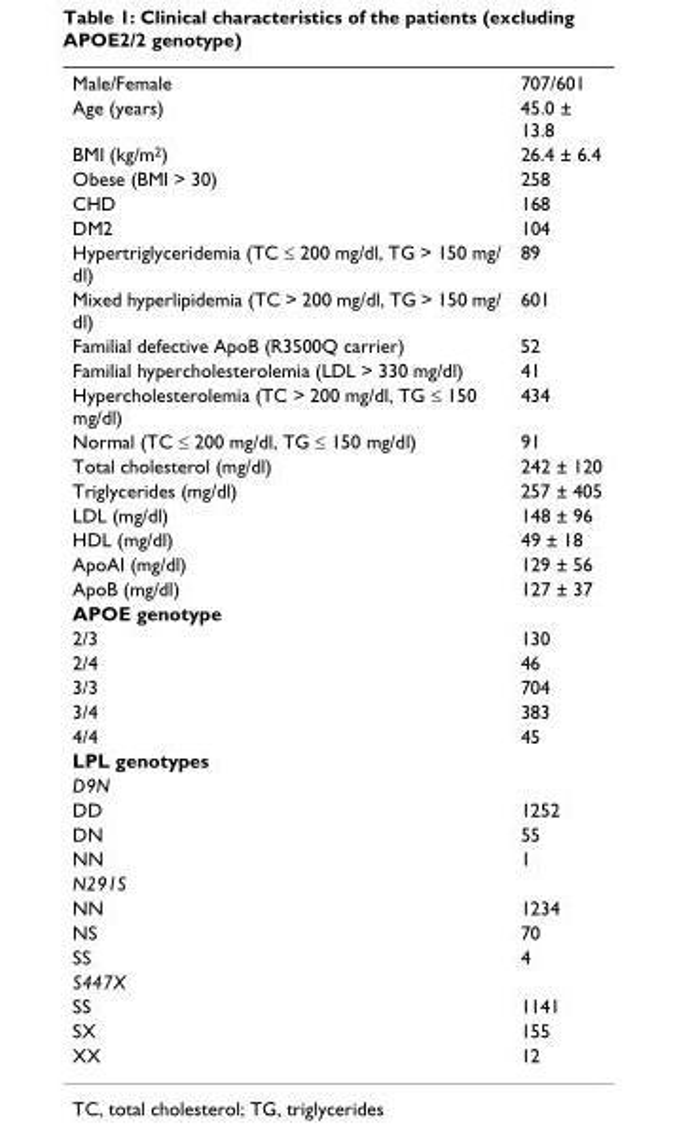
<table><tbody><tr><td>Male/Female</td><td>707/601</td></tr><tr><td>Age (years)</td><td>45.0 ± 13.8</td></tr><tr><td>BMI (kg/m<sup>2</sup>)</td><td>26.4 ± 6.4</td></tr><tr><td>Obese (BMI &gt; 30)</td><td>258</td></tr><tr><td>CHD</td><td>168</td></tr><tr><td>DM2</td><td>104</td></tr><tr><td>Hypertriglyceridemia (TC ≤ 200 mg/dl, TG &gt; 150 mg/ dl)</td><td>89</td></tr><tr><td>Mixed hyperlipidemia (TC &gt; 200 mg/dl, TG &gt; 150 mg/ dl)</td><td>601</td></tr><tr><td>Familial defective ApoB (R3500Q carrier)</td><td>52</td></tr><tr><td>Familial hypercholesterolemia (LDL &gt; 330 mg/dl)</td><td>41</td></tr><tr><td>Hypercholesterolemia (TC &gt; 200 mg/dl, TG ≤ 150 mg/dl)</td><td>434</td></tr><tr><td>Normal (TC ≤ 200 mg/dl, TG ≤ 150 mg/dl)</td><td>91</td></tr><tr><td>Total cholesterol (mg/dl)</td><td>242 ± 120</td></tr><tr><td>Triglycerides (mg/dl)</td><td>257 ± 405</td></tr><tr><td>LDL (mg/dl)</td><td>148 ± 96</td></tr><tr><td>HDL (mg/dl)</td><td>49 ± 18</td></tr><tr><td>ApoAI (mg/dl)</td><td>129 ± 56</td></tr><tr><td>ApoB (mg/dl)</td><td>127 ± 37</td></tr><tr><td colspan="2">APOE genotype</td></tr><tr><td>2/3</td><td>130</td></tr><tr><td>2/4</td><td>46</td></tr><tr><td>3/3</td><td>704</td></tr><tr><td>3/4</td><td>383</td></tr><tr><td>4/4</td><td>45</td></tr><tr><td colspan="2">LPL genotypes</td></tr><tr><td colspan="2">D9N</td></tr><tr><td>DD</td><td>1252</td></tr><tr><td>DN</td><td>55</td></tr><tr><td>NN</td><td>1</td></tr><tr><td colspan="2">N291S</td></tr><tr><td>NN</td><td>1234</td></tr><tr><td>NS</td><td>70</td></tr><tr><td>SS</td><td>4</td></tr><tr><td colspan="2">S447X</td></tr><tr><td>SS</td><td>1141</td></tr><tr><td>SX</td><td>155</td></tr><tr><td>XX</td><td>12</td></tr></tbody></table>